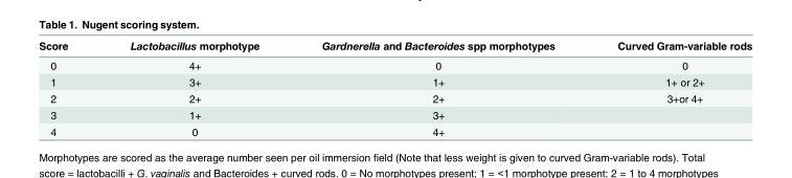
<table><thead><tr><td>Score</td><td>Lactobacillus morphotype</td><td>Gardnerella and Bacteroides spp morphotypes</td><td>Curved Gram-variable rods</td></tr></thead><tbody><tr><td>0</td><td>4+</td><td>0</td><td>0</td></tr><tr><td>1</td><td>3+</td><td>1+</td><td>1+ or 2+</td></tr><tr><td>2</td><td>2+</td><td>2+</td><td>3+or 4+</td></tr><tr><td>3</td><td>1+</td><td>3+</td><td></td></tr><tr><td>4</td><td>0</td><td>4+</td><td></td></tr></tbody></table>